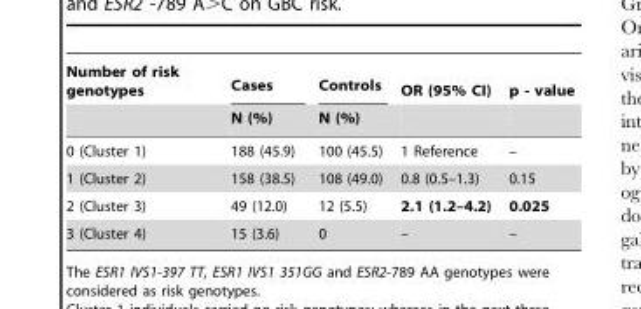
<table><thead><tr><td rowspan="2">Number of risk genotypes</td><td rowspan="2">Cases N (%)</td><td rowspan="2">Controls N (%)</td><td rowspan="2">OR (95% CI)</td><td rowspan="2">p - value</td></tr><tr></tr></thead><tbody><tr><td>0 (Cluster 1)</td><td>188 (45.9)</td><td>100 (45.5)</td><td>1 Reference</td><td>–</td></tr><tr><td>1 (Cluster 2)</td><td>158 (38.5)</td><td>108 (49.0)</td><td>0.8 (0.5–1.3)</td><td>0.15</td></tr><tr><td>2 (Cluster 3)</td><td>49 (12.0)</td><td>12 (5.5)</td><td>2.1 (1.2–4.2)</td><td>0.025</td></tr><tr><td>3 (Cluster 4)</td><td>15 (3.6)</td><td>0</td><td>–</td><td>–</td></tr></tbody></table>